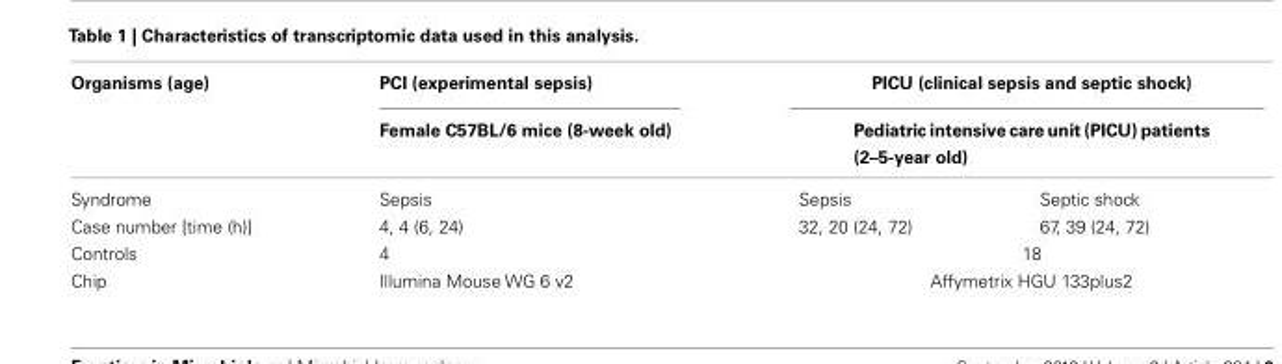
<table><thead><tr><td rowspan="3">Organisms (age) Syndrome</td><td rowspan="3">PCI (experimental sepsis) Female C57BL/6 mice (8-week old) Sepsis</td><td rowspan="2" colspan="2">PICU (clinical sepsis and septic shock) Pediatric intensive care unit (PICU) patients (2–5-year old)</td></tr><tr></tr><tr><td>Sepsis</td><td>Septic shock</td></tr></thead><tbody><tr><td>Case number [time (h)]</td><td>4, 4 (6, 24)</td><td>32, 20 (24, 72)</td><td>67, 39 (24, 72)</td></tr><tr><td>Controls</td><td>4</td><td colspan="2">18</td></tr><tr><td>Chip</td><td>Illumina Mouse WG 6 v2</td><td colspan="2">Affymetrix HGU 133plus2</td></tr></tbody></table>